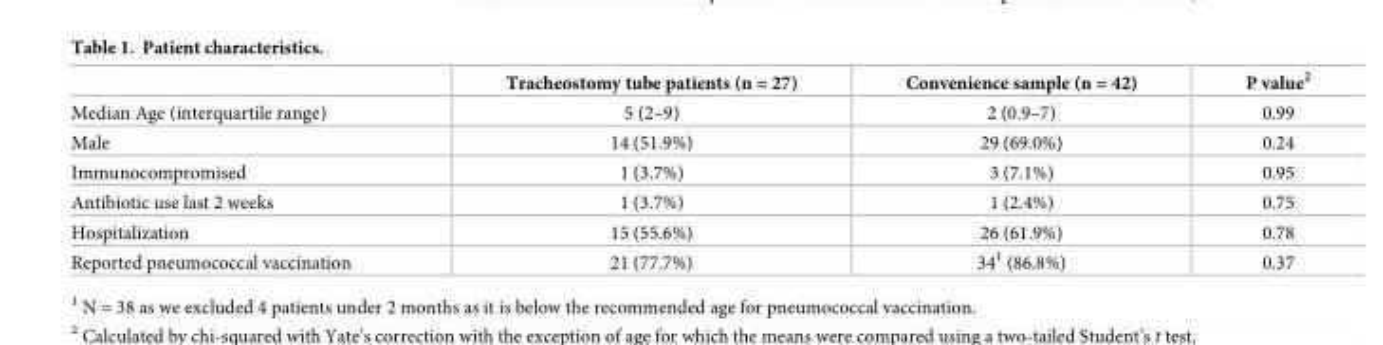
<table><thead><tr><td></td><td>Tracheostomy tube patients (n = 27)</td><td>Convenience sample (n = 42)</td><td>P value<sup>2</sup></td></tr></thead><tbody><tr><td>Median Age (interquartile range)</td><td>5 (2–9)</td><td>2 (0.9–7)</td><td>0.99</td></tr><tr><td>Male</td><td>14 (51.9%)</td><td>29 (69.0%)</td><td>0.24</td></tr><tr><td>Immunocompromised</td><td>1 (3.7%)</td><td>3 (7.1%)</td><td>0.95</td></tr><tr><td>Antibiotic use last 2 weeks</td><td>1 (3.7%)</td><td>1 (2.4%)</td><td>0.75</td></tr><tr><td>Hospitalization</td><td>15 (55.6%)</td><td>26 (61.9%)</td><td>0.78</td></tr><tr><td>Reported pneumococcal vaccination</td><td>21 (77.7%)</td><td>34<sup>1</sup> (86.8%)</td><td>0.37</td></tr></tbody></table>